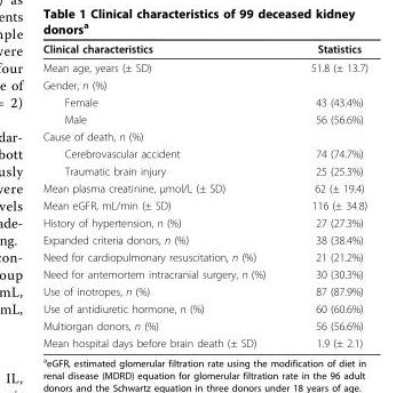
<table><thead><tr><td>Clinical characteristics</td><td>Statistics</td></tr></thead><tbody><tr><td>Mean age, years (± SD)</td><td>51.8 (± 13.7)</td></tr><tr><td colspan="2">Gender, n (%)</td></tr><tr><td>Female</td><td>43 (43.4%)</td></tr><tr><td>Male</td><td>56 (56.6%)</td></tr><tr><td colspan="2">Cause of death, n (%)</td></tr><tr><td>Cerebrovascular accident</td><td>74 (74.7%)</td></tr><tr><td>Traumatic brain injury</td><td>25 (25.3%)</td></tr><tr><td>Mean plasma creatinine, μmol/L (± SD)</td><td>62 (± 19.4)</td></tr><tr><td>Mean eGFR, mL/min (± SD)</td><td>116 (± 34.8)</td></tr><tr><td>History of hypertension, n (%)</td><td>27 (27.3%)</td></tr><tr><td>Expanded criteria donors, n (%)</td><td>38 (38.4%)</td></tr><tr><td>Need for cardiopulmonary resuscitation, n (%)</td><td>21 (21.2%)</td></tr><tr><td>Need for antemortem intracranial surgery, n (%)</td><td>30 (30.3%)</td></tr><tr><td>Use of inotropes, n (%)</td><td>87 (87.9%)</td></tr><tr><td>Use of antidiuretic hormone, n (%)</td><td>60 (60.6%)</td></tr><tr><td>Multiorgan donors, n (%)</td><td>56 (56.6%)</td></tr><tr><td>Mean hospital days before brain death (± SD)</td><td>1.9 (± 2.1)</td></tr></tbody></table>